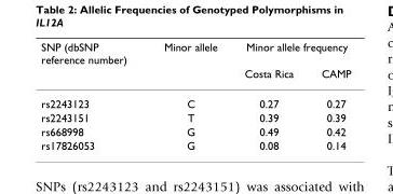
<table><thead><tr><td rowspan="2">SNP (dbSNP reference number)</td><td rowspan="2">Minor allele</td><td colspan="2">Minor allele frequency</td></tr><tr><td>Costa Rica</td><td>CAMP</td></tr></thead><tbody><tr><td>rs2243123</td><td>C</td><td>0.27</td><td>0.27</td></tr><tr><td>rs2243151</td><td>T</td><td>0.39</td><td>0.39</td></tr><tr><td>rs668998</td><td>G</td><td>0.49</td><td>0.42</td></tr><tr><td>rs17826053</td><td>G</td><td>0.08</td><td>0.14</td></tr></tbody></table>